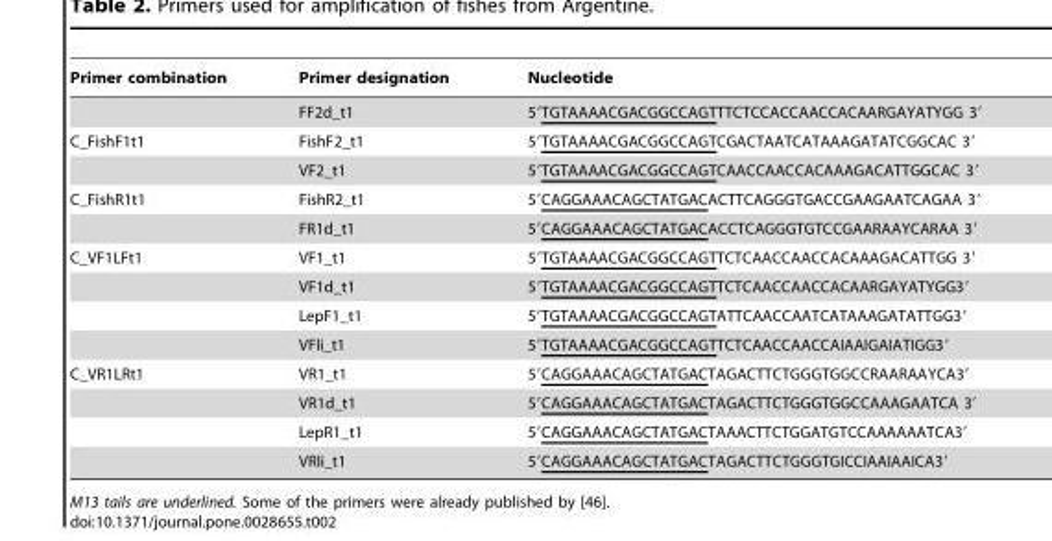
<table><thead><tr><td>Primer combination</td><td>Primer designation</td><td>Nucleotide</td></tr></thead><tbody><tr><td></td><td>FF2d_t1</td><td>5′TGTAAAACGACGGCCAGTTTCTCCACCAACCACAARGAYATYGG 3′</td></tr><tr><td rowspan="2">C_FishF1t1</td><td>FishF2_t1</td><td>5′TGTAAAACGACGGCCAGTCGACTAATCATAAAGATATCGGCAC 3′</td></tr><tr><td>VF2_t1</td><td>5′TGTAAAACGACGGCCAGTCAACCAACCACAAAGACATTGGCAC 3′</td></tr><tr><td rowspan="2">C_FishR1t1</td><td>FishR2_t1</td><td>5′CAGGAAACAGCTATGACACTTCAGGGTGACCGAAGAATCAGAA 3′</td></tr><tr><td>FR1d_t1</td><td>5′CAGGAAACAGCTATGACACCTCAGGGTGTCCGAARAAYCARAA 3′</td></tr><tr><td rowspan="4">C_VF1LFt1</td><td>VF1_t1</td><td>5′TGTAAAACGACGGCCAGTTCTCAACCAACCACAAAGACATTGG 3′</td></tr><tr><td>VF1d_t1</td><td>5′TGTAAAACGACGGCCAGTTCTCAACCAACCACAARGAYATYGG3′</td></tr><tr><td>LepF1_t1</td><td>5′TGTAAAACGACGGCCAGTATTCAACCAATCATAAAGATATTGG3′</td></tr><tr><td>VFli_t1</td><td>5′TGTAAAACGACGGCCAGTTCTCAACCAACCAIAAIGAIATIGG3′</td></tr><tr><td rowspan="4">C_VR1LRt1</td><td>VR1_t1</td><td>5′CAGGAAACAGCTATGACTAGACTTCTGGGTGGCCRAARAAYCA3′</td></tr><tr><td>VR1d_t1</td><td>5′CAGGAAACAGCTATGACTAGACTTCTGGGTGGCCAAAGAATCA 3′</td></tr><tr><td>LepR1_t1</td><td>5′CAGGAAACAGCTATGACTAAACTTCTGGATGTCCAAAAAATCA3′</td></tr><tr><td>VRli_t1</td><td>5′CAGGAAACAGCTATGACTAGACTTCTGGGTGICCIAAIAAICA3′</td></tr></tbody></table>